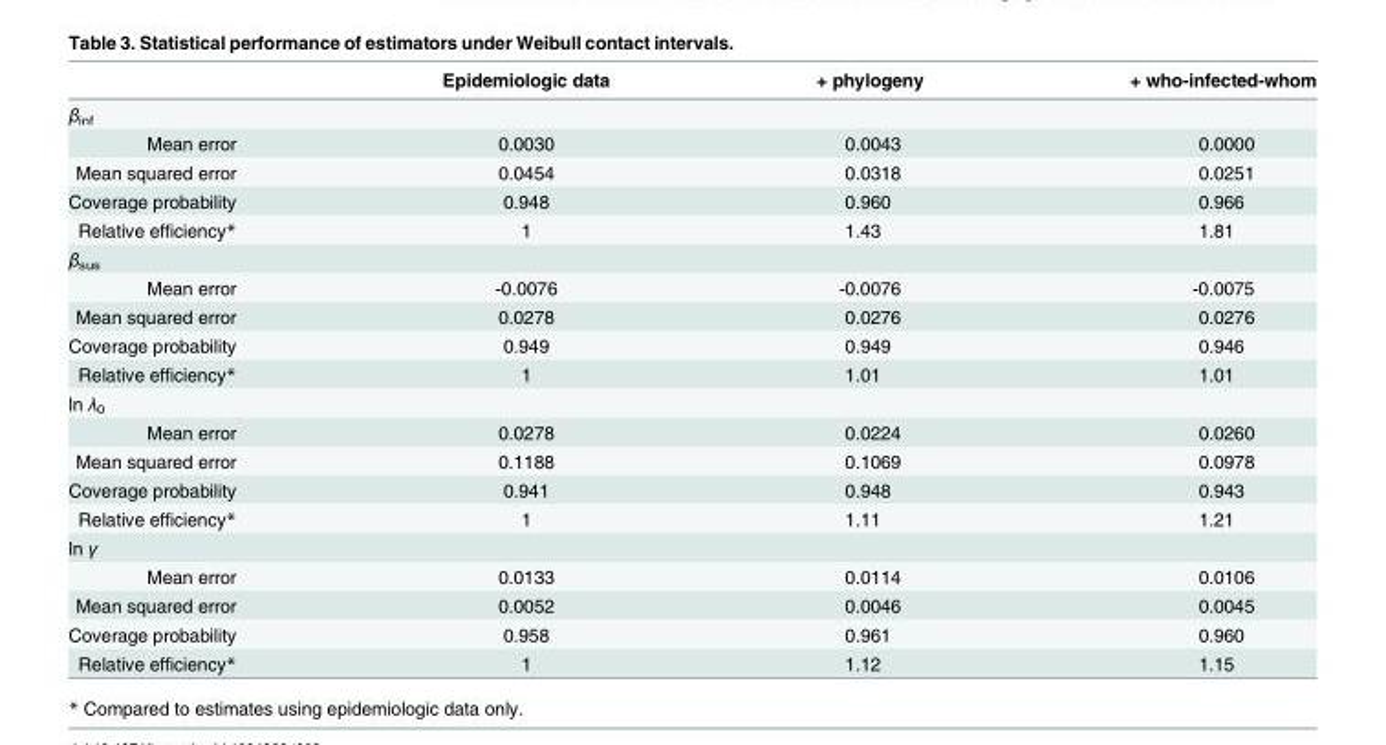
<table><thead><tr><td></td><td>Epidemiologic data</td><td>+ phylogeny</td><td>+ who-infected-whom</td></tr></thead><tbody><tr><td colspan="4">β<sub>inf</sub></td></tr><tr><td>Mean error</td><td>0.0030</td><td>0.0043</td><td>0.0000</td></tr><tr><td>Mean squared error</td><td>0.0454</td><td>0.0318</td><td>0.0251</td></tr><tr><td>Coverage probability</td><td>0.948</td><td>0.960</td><td>0.966</td></tr><tr><td>Relative efficiency*</td><td>1</td><td>1.43</td><td>1.81</td></tr><tr><td colspan="4">β<sub>sus</sub></td></tr><tr><td>Mean error</td><td>-0.0076</td><td>-0.0076</td><td>-0.0075</td></tr><tr><td>Mean squared error</td><td>0.0278</td><td>0.0276</td><td>0.0276</td></tr><tr><td>Coverage probability</td><td>0.949</td><td>0.949</td><td>0.946</td></tr><tr><td>Relative efficiency*</td><td>1</td><td>1.01</td><td>1.01</td></tr><tr><td colspan="4">ln λ<sub>0</sub></td></tr><tr><td>Mean error</td><td>0.0278</td><td>0.0224</td><td>0.0260</td></tr><tr><td>Mean squared error</td><td>0.1188</td><td>0.1069</td><td>0.0978</td></tr><tr><td>Coverage probability</td><td>0.941</td><td>0.948</td><td>0.943</td></tr><tr><td>Relative efficiency*</td><td>1</td><td>1.11</td><td>1.21</td></tr><tr><td colspan="4">ln γ</td></tr><tr><td>Mean error</td><td>0.0133</td><td>0.0114</td><td>0.0106</td></tr><tr><td>Mean squared error</td><td>0.0052</td><td>0.0046</td><td>0.0045</td></tr><tr><td>Coverage probability</td><td>0.958</td><td>0.961</td><td>0.960</td></tr><tr><td>Relative efficiency*</td><td>1</td><td>1.12</td><td>1.15</td></tr></tbody></table>